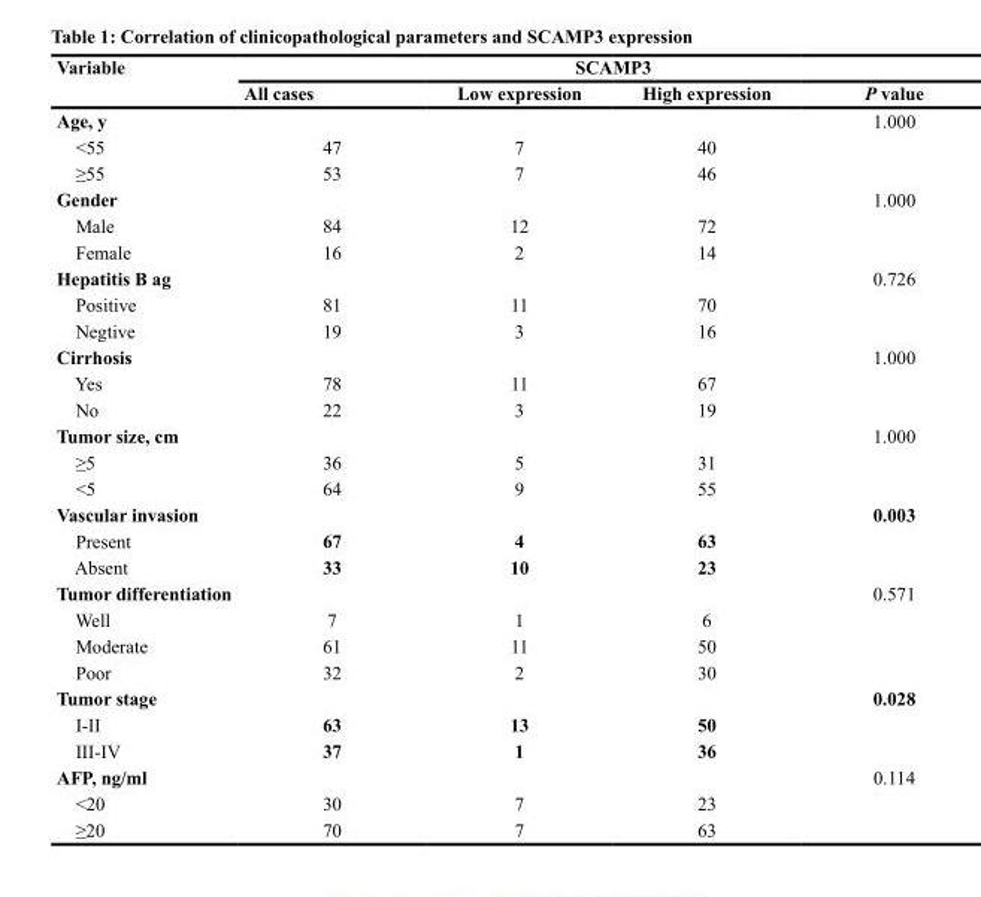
<table><thead><tr><td rowspan="2">Variable</td><td colspan="4">SCAMP3</td></tr><tr><td>All cases</td><td>Low expression</td><td>High expression</td><td>P value</td></tr></thead><tbody><tr><td>Age, y</td><td></td><td></td><td></td><td>1.000</td></tr><tr><td>&lt;55</td><td>47</td><td>7</td><td>40</td><td></td></tr><tr><td>≥55</td><td>53</td><td>7</td><td>46</td><td></td></tr><tr><td>Gender</td><td></td><td></td><td></td><td>1.000</td></tr><tr><td>Male</td><td>84</td><td>12</td><td>72</td><td></td></tr><tr><td>Female</td><td>16</td><td>2</td><td>14</td><td></td></tr><tr><td>Hepatitis B ag</td><td></td><td></td><td></td><td>0.726</td></tr><tr><td>Positive</td><td>81</td><td>11</td><td>70</td><td></td></tr><tr><td>Negtive</td><td>19</td><td>3</td><td>16</td><td></td></tr><tr><td>Cirrhosis</td><td></td><td></td><td></td><td>1.000</td></tr><tr><td>Yes</td><td>78</td><td>11</td><td>67</td><td></td></tr><tr><td>No</td><td>22</td><td>3</td><td>19</td><td></td></tr><tr><td>Tumor size, cm</td><td></td><td></td><td></td><td>1.000</td></tr><tr><td>≥5</td><td>36</td><td>5</td><td>31</td><td></td></tr><tr><td>&lt;5</td><td>64</td><td>9</td><td>55</td><td></td></tr><tr><td>Vascular invasion</td><td></td><td></td><td></td><td>0.003</td></tr><tr><td>Present</td><td>67</td><td>4</td><td>63</td><td></td></tr><tr><td>Absent</td><td>33</td><td>10</td><td>23</td><td></td></tr><tr><td>Tumor differentiation</td><td></td><td></td><td></td><td>0.571</td></tr><tr><td>Well</td><td>7</td><td>1</td><td>6</td><td></td></tr><tr><td>Moderate</td><td>61</td><td>11</td><td>50</td><td></td></tr><tr><td>Poor</td><td>32</td><td>2</td><td>30</td><td></td></tr><tr><td>Tumor stage</td><td></td><td></td><td></td><td>0.028</td></tr><tr><td>I-II</td><td>63</td><td>13</td><td>50</td><td></td></tr><tr><td>III-IV</td><td>37</td><td>1</td><td>36</td><td></td></tr><tr><td>AFP, ng/ml</td><td></td><td></td><td></td><td>0.114</td></tr><tr><td>&lt;20</td><td>30</td><td>7</td><td>23</td><td></td></tr><tr><td>≥20</td><td>70</td><td>7</td><td>63</td><td></td></tr></tbody></table>